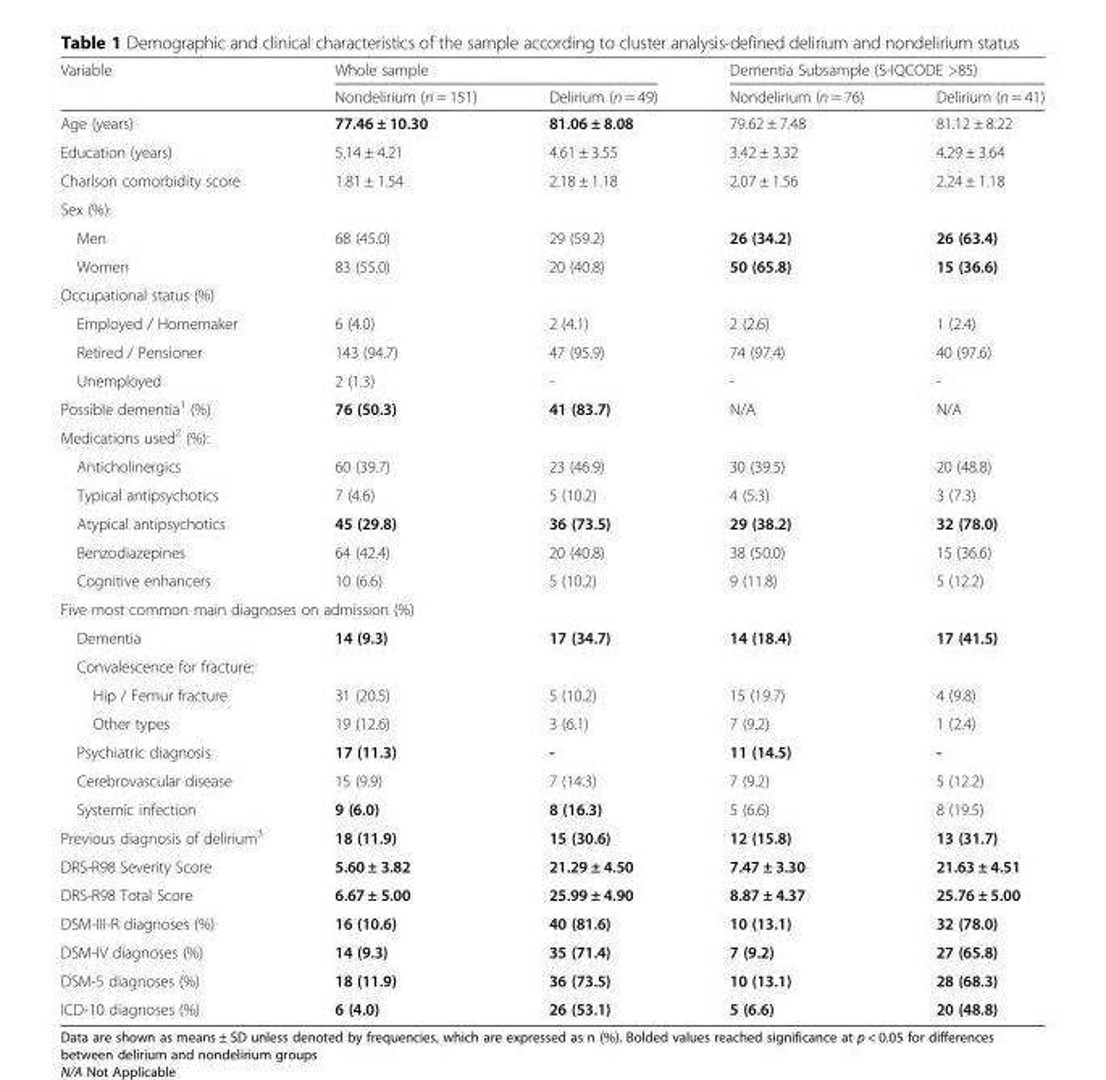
<table><thead><tr><td rowspan="2">Variable</td><td colspan="2">Whole sample</td><td colspan="2">Dementia Subsample (S-IQCODE &gt;85)</td></tr><tr><td>Nondelirium (n = 151)</td><td>Delirium (n = 49)</td><td>Nondelirium (n = 76)</td><td>Delirium (n = 41)</td></tr></thead><tbody><tr><td>Age (years)</td><td>77.46 ± 10.30</td><td>81.06 ± 8.08</td><td>79.62 ± 7.48</td><td>81.12 ± 8.22</td></tr><tr><td>Education (years)</td><td>5.14 ± 4.21</td><td>4.61 ± 3.55</td><td>3.42 ± 3.32</td><td>4.29 ± 3.64</td></tr><tr><td>Charlson comorbidity score</td><td>1.81 ± 1.54</td><td>2.18 ± 1.18</td><td>2.07 ± 1.56</td><td>2.24 ± 1.18</td></tr><tr><td colspan="5">Sex (%):</td></tr><tr><td>Men</td><td>68 (45.0)</td><td>29 (59.2)</td><td>26 (34.2)</td><td>26 (63.4)</td></tr><tr><td>Women</td><td>83 (55.0)</td><td>20 (40.8)</td><td>50 (65.8)</td><td>15 (36.6)</td></tr><tr><td colspan="5">Occupational status (%)</td></tr><tr><td>Employed / Homemaker</td><td>6 (4.0)</td><td>2 (4.1)</td><td>2 (2.6)</td><td>1 (2.4)</td></tr><tr><td>Retired / Pensioner</td><td>143 (94.7)</td><td>47 (95.9)</td><td>74 (97.4)</td><td>40 (97.6)</td></tr><tr><td>Unemployed</td><td>2 (1.3)</td><td>-</td><td>-</td><td>-</td></tr><tr><td>Possible dementia<sup>1</sup> (%)</td><td>76 (50.3)</td><td>41 (83.7)</td><td>N/A</td><td>N/A</td></tr><tr><td colspan="5">Medications used<sup>2</sup> (%):</td></tr><tr><td>Anticholinergics</td><td>60 (39.7)</td><td>23 (46.9)</td><td>30 (39.5)</td><td>20 (48.8)</td></tr><tr><td>Typical antipsychotics</td><td>7 (4.6)</td><td>5 (10.2)</td><td>4 (5.3)</td><td>3 (7.3)</td></tr><tr><td>Atypical antipsychotics</td><td>45 (29.8)</td><td>36 (73.5)</td><td>29 (38.2)</td><td>32 (78.0)</td></tr><tr><td>Benzodiazepines</td><td>64 (42.4)</td><td>20 (40.8)</td><td>38 (50.0)</td><td>15 (36.6)</td></tr><tr><td>Cognitive enhancers</td><td>10 (6.6)</td><td>5 (10.2)</td><td>9 (11.8)</td><td>5 (12.2)</td></tr><tr><td colspan="5">Five most common main diagnoses on admission (%)</td></tr><tr><td>Dementia</td><td>14 (9.3)</td><td>17 (34.7)</td><td>14 (18.4)</td><td>17 (41.5)</td></tr><tr><td colspan="5">Convalescence for fracture:</td></tr><tr><td>Hip / Femur fracture</td><td>31 (20.5)</td><td>5 (10.2)</td><td>15 (19.7)</td><td>4 (9.8)</td></tr><tr><td>Other types</td><td>19 (12.6)</td><td>3 (6.1)</td><td>7 (9.2)</td><td>1 (2.4)</td></tr><tr><td>Psychiatric diagnosis</td><td>17 (11.3)</td><td>-</td><td>11 (14.5)</td><td>-</td></tr><tr><td>Cerebrovascular disease</td><td>15 (9.9)</td><td>7 (14.3)</td><td>7 (9.2)</td><td>5 (12.2)</td></tr><tr><td>Systemic infection</td><td>9 (6.0)</td><td>8 (16.3)</td><td>5 (6.6)</td><td>8 (19.5)</td></tr><tr><td>Previous diagnosis of delirium<sup>3</sup></td><td>18 (11.9)</td><td>15 (30.6)</td><td>12 (15.8)</td><td>13 (31.7)</td></tr><tr><td>DRS-R98 Severity Score</td><td>5.60 ± 3.82</td><td>21.29 ± 4.50</td><td>7.47 ± 3.30</td><td>21.63 ± 4.51</td></tr><tr><td>DRS-R98 Total Score</td><td>6.67 ± 5.00</td><td>25.99 ± 4.90</td><td>8.87 ± 4.37</td><td>25.76 ± 5.00</td></tr><tr><td>DSM-III-R diagnoses (%)</td><td>16 (10.6)</td><td>40 (81.6)</td><td>10 (13.1)</td><td>32 (78.0)</td></tr><tr><td>DSM-IV diagnoses (%)</td><td>14 (9.3)</td><td>35 (71.4)</td><td>7 (9.2)</td><td>27 (65.8)</td></tr><tr><td>DSM-5 diagnoses (%)</td><td>18 (11.9)</td><td>36 (73.5)</td><td>10 (13.1)</td><td>28 (68.3)</td></tr><tr><td>ICD-10 diagnoses (%)</td><td>6 (4.0)</td><td>26 (53.1)</td><td>5 (6.6)</td><td>20 (48.8)</td></tr></tbody></table>